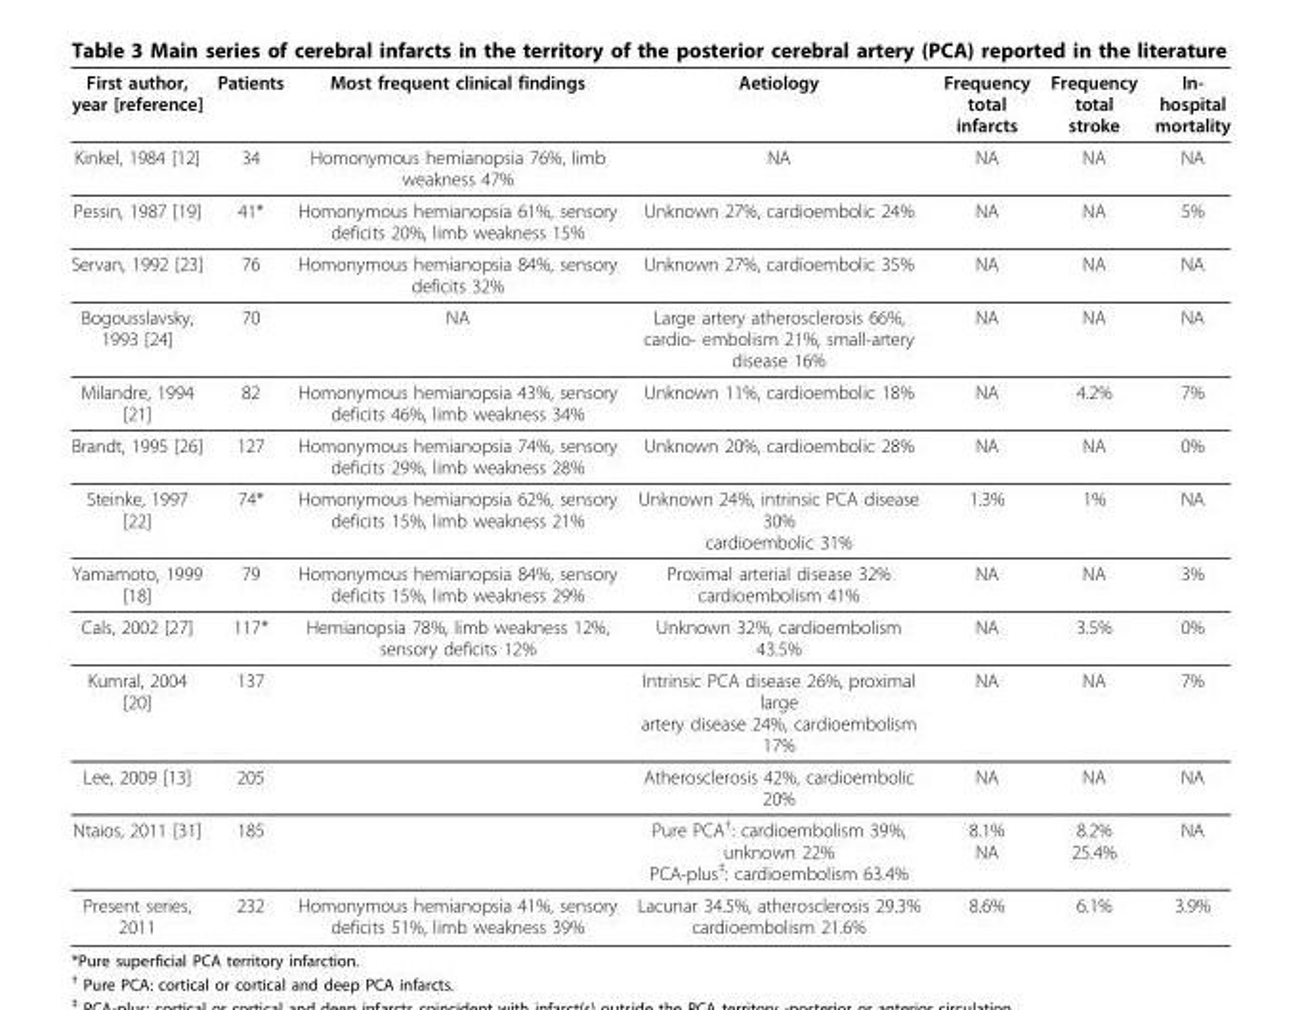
<table><thead><tr><td>First author, year [reference]</td><td>Patients</td><td>Most frequent clinical findings</td><td>Aetiology</td><td>Frequency total infarcts</td><td>Frequency total stroke</td><td>In- hospital mortality</td></tr></thead><tbody><tr><td>Kinkel, 1984 [12]</td><td>34</td><td>Homonymous hemianopsia 76%, limb weakness 47%</td><td>NA</td><td>NA</td><td>NA</td><td>NA</td></tr><tr><td>Pessin, 1987 [19]</td><td>41*</td><td>Homonymous hemianopsia 61%, sensory deficits 20%, limb weakness 15%</td><td>Unknown 27%, cardioembolic 24%</td><td>NA</td><td>NA</td><td>5%</td></tr><tr><td>Servan, 1992 [23]</td><td>76</td><td>Homonymous hemianopsia 84%, sensory deficits 32%</td><td>Unknown 27%, cardioembolic 35%</td><td>NA</td><td>NA</td><td>NA</td></tr><tr><td>Bogousslavsky, 1993 [24]</td><td>70</td><td>NA</td><td>Large artery atherosclerosis 66%, cardio- embolism 21%, small-artery disease 16%</td><td>NA</td><td>NA</td><td>NA</td></tr><tr><td>Milandre, 1994 [21]</td><td>82</td><td>Homonymous hemianopsia 43%, sensory deficits 46%, limb weakness 34%</td><td>Unknown 11%, cardioembolic 18%</td><td>NA</td><td>4.2%</td><td>7%</td></tr><tr><td>Brandt, 1995 [26]</td><td>127</td><td>Homonymous hemianopsia 74%, sensory deficits 29%, limb weakness 28%</td><td>Unknown 20%, cardioembolic 28%</td><td>NA</td><td>NA</td><td>0%</td></tr><tr><td>Steinke, 1997 [22]</td><td>74*</td><td>Homonymous hemianopsia 62%, sensory deficits 15%, limb weakness 21%</td><td>Unknown 24%, intrinsic PCA disease 30% cardioembolic 31%</td><td>1.3%</td><td>1%</td><td>NA</td></tr><tr><td>Yamamoto, 1999 [18]</td><td>79</td><td>Homonymous hemianopsia 84%, sensory deficits 15%, limb weakness 29%</td><td>Proximal arterial disease 32% cardioembolism 41%</td><td>NA</td><td>NA</td><td>3%</td></tr><tr><td>Cals, 2002 [27]</td><td>117*</td><td>Hemianopsia 78%, limb weakness 12%, sensory deficits 12%</td><td>Unknown 32%, cardioembolism 43.5%</td><td>NA</td><td>3.5%</td><td>0%</td></tr><tr><td>Kumral, 2004 [20]</td><td>137</td><td></td><td>Intrinsic PCA disease 26%, proximal large artery disease 24%, cardioembolism 17%</td><td>NA</td><td>NA</td><td>7%</td></tr><tr><td>Lee, 2009 [13]</td><td>205</td><td></td><td>Atherosclerosis 42%, cardioembolic 20%</td><td>NA</td><td>NA</td><td>NA</td></tr><tr><td>Ntaios, 2011 [31]</td><td>185</td><td></td><td>Pure PCA<sup>†</sup>: cardioembolism 39%, unknown 22% PCA-plus<sup>‡</sup>: cardioembolism 63.4%</td><td>8.1% NA</td><td>8.2% 25.4%</td><td>NA</td></tr><tr><td>Present series, 2011</td><td>232</td><td>Homonymous hemianopsia 41%, sensory deficits 51%, limb weakness 39%</td><td>Lacunar 34.5%, atherosclerosis 29.3% cardioembolism 21.6%</td><td>8.6%</td><td>6.1%</td><td>3.9%</td></tr></tbody></table>